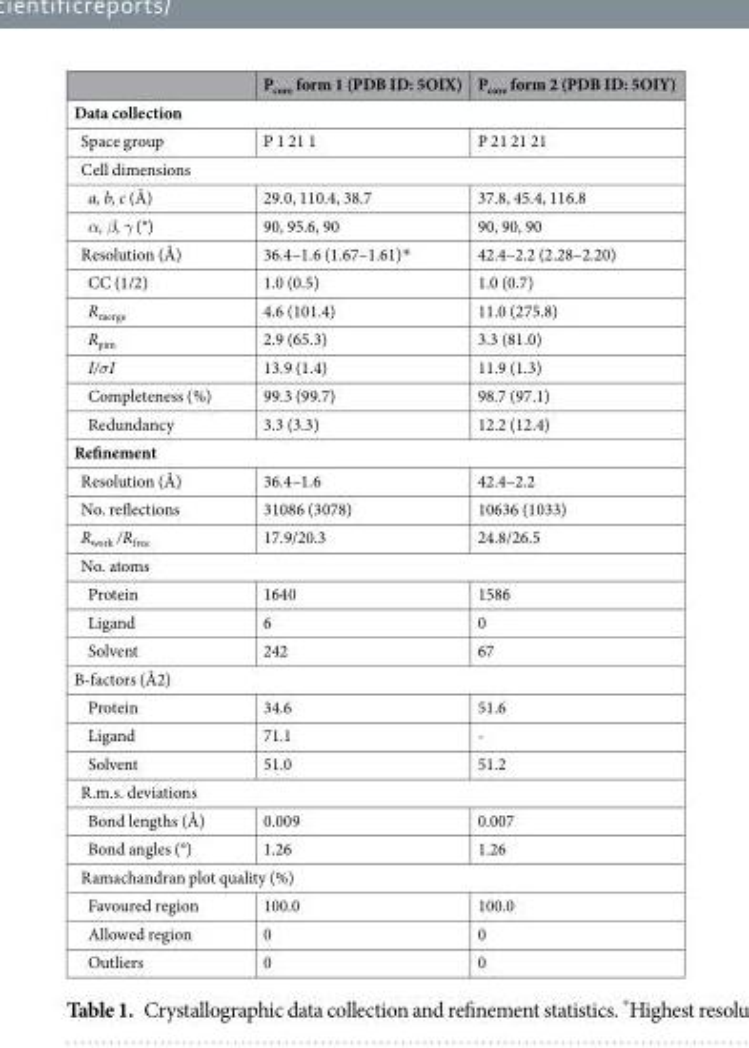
<table><thead><tr><td></td><td>P<sub>core</sub> form 1 (PDB ID: 5OIX)</td><td>P<sub>core</sub> form 2 (PDB ID: 5OIY)</td></tr></thead><tbody><tr><td colspan="3">Data collection</td></tr><tr><td>Space group</td><td>P 1 21 1</td><td>P 21 21 21</td></tr><tr><td colspan="3">Cell dimensions</td></tr><tr><td>a, b, c (Å)</td><td>29.0, 110.4, 38.7</td><td>37.8, 45.4, 116.8</td></tr><tr><td>α, β, γ (°)</td><td>90, 95.6, 90</td><td>90, 90, 90</td></tr><tr><td>Resolution (Å)</td><td>36.4–1.6 (1.67–1.61)*</td><td>42.4–2.2 (2.28–2.20)</td></tr><tr><td>CC (1/2)</td><td>1.0 (0.5)</td><td>1.0 (0.7)</td></tr><tr><td>R<sub>merge</sub></td><td>4.6 (101.4)</td><td>11.0 (275.8)</td></tr><tr><td>R<sub>pim</sub></td><td>2.9 (65.3)</td><td>3.3 (81.0)</td></tr><tr><td>I/σI</td><td>13.9 (1.4)</td><td>11.9 (1.3)</td></tr><tr><td>Completeness (%)</td><td>99.3 (99.7)</td><td>98.7 (97.1)</td></tr><tr><td>Redundancy</td><td>3.3 (3.3)</td><td>12.2 (12.4)</td></tr><tr><td colspan="3">Refinement</td></tr><tr><td>Resolution (Å)</td><td>36.4–1.6</td><td>42.4–2.2</td></tr><tr><td>No. reflections</td><td>31086 (3078)</td><td>10636 (1033)</td></tr><tr><td>R<sub>work</sub> /R<sub>free</sub></td><td>17.9/20.3</td><td>24.8/26.5</td></tr><tr><td colspan="3">No. atoms</td></tr><tr><td>Protein</td><td>1640</td><td>1586</td></tr><tr><td>Ligand</td><td>6</td><td>0</td></tr><tr><td>Solvent</td><td>242</td><td>67</td></tr><tr><td colspan="3">B-factors (Å2)</td></tr><tr><td>Protein</td><td>34.6</td><td>51.6</td></tr><tr><td>Ligand</td><td>71.1</td><td>-</td></tr><tr><td>Solvent</td><td>51.0</td><td>51.2</td></tr><tr><td colspan="3">R.m.s. deviations</td></tr><tr><td>Bond lengths (Å)</td><td>0.009</td><td>0.007</td></tr><tr><td>Bond angles (°)</td><td>1.26</td><td>1.26</td></tr><tr><td colspan="3">Ramachandran plot quality (%)</td></tr><tr><td>Favoured region</td><td>100.0</td><td>100.0</td></tr><tr><td>Allowed region</td><td>0</td><td>0</td></tr><tr><td>Outliers</td><td>0</td><td>0</td></tr></tbody></table>